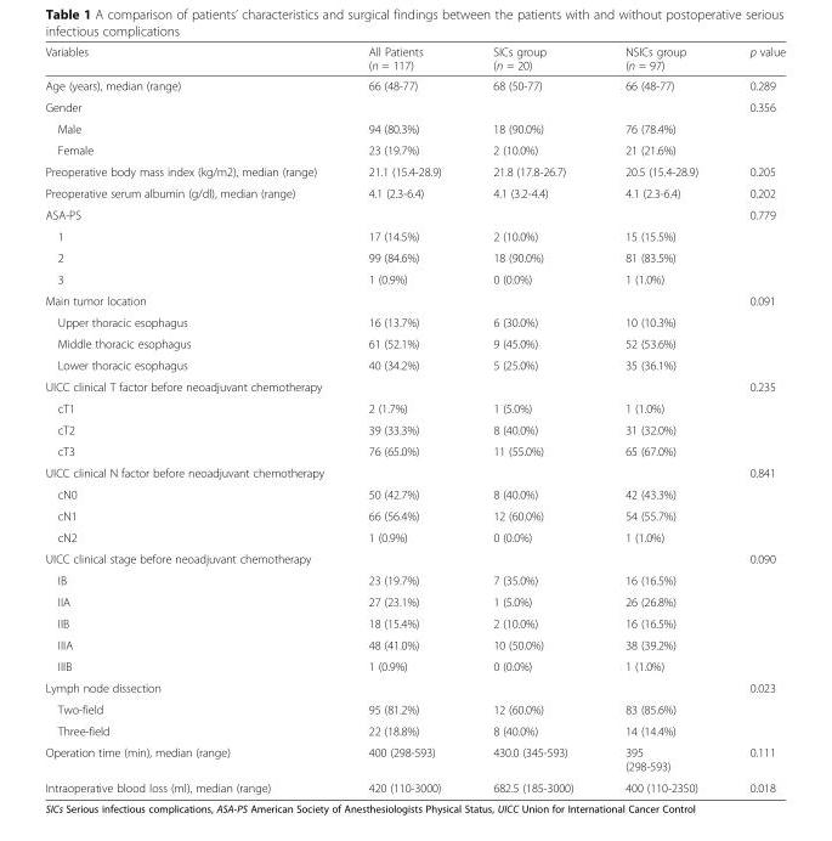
<table><thead><tr><td>Variables</td><td>All Patients (n = 117)</td><td>SICs group (n = 20)</td><td>NSICs group (n = 97)</td><td>p value</td></tr></thead><tbody><tr><td>Age (years), median (range)</td><td>66 (48-77)</td><td>68 (50-77)</td><td>66 (48-77)</td><td>0.289</td></tr><tr><td>Gender</td><td></td><td></td><td></td><td>0.356</td></tr><tr><td>Male</td><td>94 (80.3%)</td><td>18 (90.0%)</td><td>76 (78.4%)</td><td></td></tr><tr><td>Female</td><td>23 (19.7%)</td><td>2 (10.0%)</td><td>21 (21.6%)</td><td></td></tr><tr><td>Preoperative body mass index (kg/m2), median (range)</td><td>21.1 (15.4-28.9)</td><td>21.8 (17.8-26.7)</td><td>20.5 (15.4-28.9)</td><td>0.205</td></tr><tr><td>Preoperative serum albumin (g/dl), median (range)</td><td>4.1 (2.3-6.4)</td><td>4.1 (3.2-4.4)</td><td>4.1 (2.3-6.4)</td><td>0.202</td></tr><tr><td>ASA-PS</td><td></td><td></td><td></td><td>0.779</td></tr><tr><td>1</td><td>17 (14.5%)</td><td>2 (10.0%)</td><td>15 (15.5%)</td><td></td></tr><tr><td>2</td><td>99 (84.6%)</td><td>18 (90.0%)</td><td>81 (83.5%)</td><td></td></tr><tr><td>3</td><td>1 (0.9%)</td><td>0 (0.0%)</td><td>1 (1.0%)</td><td></td></tr><tr><td>Main tumor location</td><td></td><td></td><td></td><td>0.091</td></tr><tr><td>Upper thoracic esophagus</td><td>16 (13.7%)</td><td>6 (30.0%)</td><td>10 (10.3%)</td><td></td></tr><tr><td>Middle thoracic esophagus</td><td>61 (52.1%)</td><td>9 (45.0%)</td><td>52 (53.6%)</td><td></td></tr><tr><td>Lower thoracic esophagus</td><td>40 (34.2%)</td><td>5 (25.0%)</td><td>35 (36.1%)</td><td></td></tr><tr><td colspan="2">UICC clinical T factor before neoadjuvant chemotherapy</td><td></td><td></td><td>0.235</td></tr><tr><td>cT1</td><td>2 (1.7%)</td><td>1 (5.0%)</td><td>1 (1.0%)</td><td></td></tr><tr><td>cT2</td><td>39 (33.3%)</td><td>8 (40.0%)</td><td>31 (32.0%)</td><td></td></tr><tr><td>cT3</td><td>76 (65.0%)</td><td>11 (55.0%)</td><td>65 (67.0%)</td><td></td></tr><tr><td colspan="2">UICC clinical N factor before neoadjuvant chemotherapy</td><td></td><td></td><td>0.841</td></tr><tr><td>cN0</td><td>50 (42.7%)</td><td>8 (40.0%)</td><td>42 (43.3%)</td><td></td></tr><tr><td>cN1</td><td>66 (56.4%)</td><td>12 (60.0%)</td><td>54 (55.7%)</td><td></td></tr><tr><td>cN2</td><td>1 (0.9%)</td><td>0 (0.0%)</td><td>1 (1.0%)</td><td></td></tr><tr><td colspan="2">UICC clinical stage before neoadjuvant chemotherapy</td><td></td><td></td><td>0.090</td></tr><tr><td>IB</td><td>23 (19.7%)</td><td>7 (35.0%)</td><td>16 (16.5%)</td><td></td></tr><tr><td>IIA</td><td>27 (23.1%)</td><td>1 (5.0%)</td><td>26 (26.8%)</td><td></td></tr><tr><td>IIB</td><td>18 (15.4%)</td><td>2 (10.0%)</td><td>16 (16.5%)</td><td></td></tr><tr><td>IIIA</td><td>48 (41.0%)</td><td>10 (50.0%)</td><td>38 (39.2%)</td><td></td></tr><tr><td>IIIB</td><td>1 (0.9%)</td><td>0 (0.0%)</td><td>1 (1.0%)</td><td></td></tr><tr><td>Lymph node dissection</td><td></td><td></td><td></td><td>0.023</td></tr><tr><td>Two-field</td><td>95 (81.2%)</td><td>12 (60.0%)</td><td>83 (85.6%)</td><td></td></tr><tr><td>Three-field</td><td>22 (18.8%)</td><td>8 (40.0%)</td><td>14 (14.4%)</td><td></td></tr><tr><td>Operation time (min), median (range)</td><td>400 (298-593)</td><td>430.0 (345-593)</td><td>395 (298-593)</td><td>0.111</td></tr><tr><td>Intraoperative blood loss (ml), median (range)</td><td>420 (110-3000)</td><td>682.5 (185-3000)</td><td>400 (110-2350)</td><td>0.018</td></tr></tbody></table>